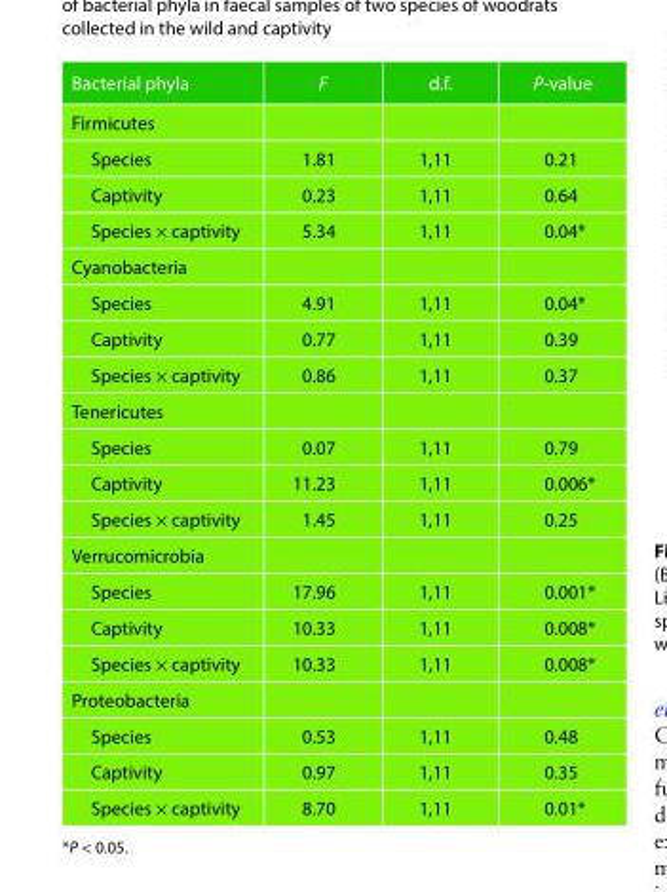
<table><thead><tr><td>Bacterial phyla</td><td>F</td><td>d.f.</td><td>P-value</td></tr></thead><tbody><tr><td colspan="4">Firmicutes</td></tr><tr><td>Species</td><td>1.81</td><td>1,11</td><td>0.21</td></tr><tr><td>Captivity</td><td>0.23</td><td>1,11</td><td>0.64</td></tr><tr><td>Species × captivity</td><td>5.34</td><td>1,11</td><td>0.04*</td></tr><tr><td colspan="4">Cyanobacteria</td></tr><tr><td>Species</td><td>4.91</td><td>1,11</td><td>0.04*</td></tr><tr><td>Captivity</td><td>0.77</td><td>1,11</td><td>0.39</td></tr><tr><td>Species × captivity</td><td>0.86</td><td>1,11</td><td>0.37</td></tr><tr><td colspan="4">Tenericutes</td></tr><tr><td>Species</td><td>0.07</td><td>1,11</td><td>0.79</td></tr><tr><td>Captivity</td><td>11.23</td><td>1,11</td><td>0.006*</td></tr><tr><td>Species × captivity</td><td>1.45</td><td>1,11</td><td>0.25</td></tr><tr><td colspan="4">Verrucomicrobia</td></tr><tr><td>Species</td><td>17.96</td><td>1,11</td><td>0.001*</td></tr><tr><td>Captivity</td><td>10.33</td><td>1,11</td><td>0.008*</td></tr><tr><td>Species × captivity</td><td>10.33</td><td>1,11</td><td>0.008*</td></tr><tr><td colspan="4">Proteobacteria</td></tr><tr><td>Species</td><td>0.53</td><td>1,11</td><td>0.48</td></tr><tr><td>Captivity</td><td>0.97</td><td>1,11</td><td>0.35</td></tr><tr><td>Species × captivity</td><td>8.70</td><td>1,11</td><td>0.01*</td></tr></tbody></table>